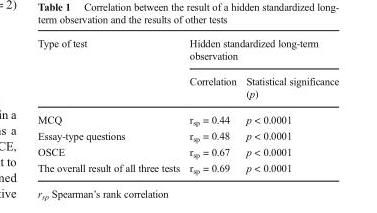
<table><thead><tr><td rowspan="2">Type of test</td><td colspan="2">Hidden standardized long-term observation</td></tr><tr><td>Correlation</td><td>Statistical significance (p)</td></tr></thead><tbody><tr><td>MCQ</td><td>r<sub>sp</sub> = 0.44</td><td>p &lt; 0.0001</td></tr><tr><td>Essay-type questions</td><td>r<sub>sp</sub> = 0.48</td><td>p &lt; 0.0001</td></tr><tr><td>OSCE</td><td>r<sub>sp</sub> = 0.67</td><td>p &lt; 0.0001</td></tr><tr><td>The overall result of all three tests</td><td>r<sub>sp</sub> = 0.69</td><td>p &lt; 0.0001</td></tr></tbody></table>